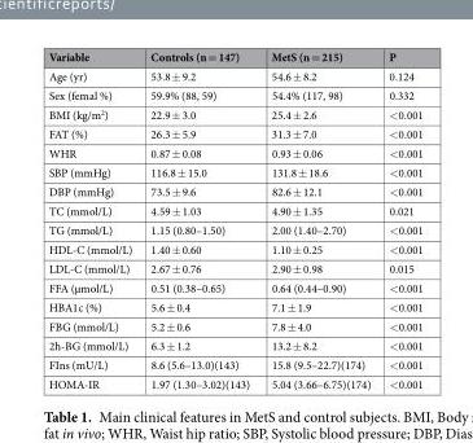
<table><thead><tr><td>Variable</td><td>Controls (n = 147)</td><td>MetS (n = 215)</td><td>P</td></tr></thead><tbody><tr><td>Age (yr)</td><td>53.8 ± 9.2</td><td>54.6 ± 8.2</td><td>0.124</td></tr><tr><td>Sex (femal %)</td><td>59.9% (88, 59)</td><td>54.4% (117, 98)</td><td>0.332</td></tr><tr><td>BMI (kg/m<sup>2</sup>)</td><td>22.9 ± 3.0</td><td>25.4 ± 2.6</td><td>&lt;0.001</td></tr><tr><td>FAT (%)</td><td>26.3 ± 5.9</td><td>31.3 ± 7.0</td><td>&lt;0.001</td></tr><tr><td>WHR</td><td>0.87 ± 0.08</td><td>0.93 ± 0.06</td><td>&lt;0.001</td></tr><tr><td>SBP (mmHg)</td><td>116.8 ± 15.0</td><td>131.8 ± 18.6</td><td>&lt;0.001</td></tr><tr><td>DBP (mmHg)</td><td>73.5 ± 9.6</td><td>82.6 ± 12.1</td><td>&lt;0.001</td></tr><tr><td>TC (mmol/L)</td><td>4.59 ± 1.03</td><td>4.90 ± 1.35</td><td>0.021</td></tr><tr><td>TG (mmol/L)</td><td>1.15 (0.80–1.50)</td><td>2.00 (1.40–2.70)</td><td>&lt;0.001</td></tr><tr><td>HDL-C (mmol/L)</td><td>1.40 ± 0.60</td><td>1.10 ± 0.25</td><td>&lt;0.001</td></tr><tr><td>LDL-C (mmol/L)</td><td>2.67 ± 0.76</td><td>2.90 ± 0.98</td><td>0.015</td></tr><tr><td>FFA (µmol/L)</td><td>0.51 (0.38–0.65)</td><td>0.64 (0.44–0.90)</td><td>&lt;0.001</td></tr><tr><td>HBA1c (%)</td><td>5.6 ± 0.4</td><td>7.1 ± 1.9</td><td>&lt;0.001</td></tr><tr><td>FBG (mmol/L)</td><td>5.2 ± 0.6</td><td>7.8 ± 4.0</td><td>&lt;0.001</td></tr><tr><td>2h-BG (mmol/L)</td><td>6.3 ± 1.2</td><td>13.2 ± 8.2</td><td>&lt;0.001</td></tr><tr><td>FIns (mU/L)</td><td>8.6 (5.6–13.0)(143)</td><td>15.8 (9.5–22.7)(174)</td><td>&lt;0.001</td></tr><tr><td>HOMA-IR</td><td>1.97 (1.30–3.02)(143)</td><td>5.04 (3.66–6.75)(174)</td><td>&lt;0.001</td></tr></tbody></table>